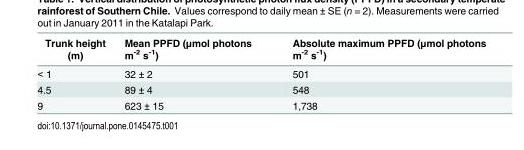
<table><thead><tr><td>Trunk height (m)</td><td>Mean PPFD (μmol photons m<sup>-2</sup> s<sup>-1</sup>)</td><td>Absolute maximum PPFD (μmol photons m<sup>-2</sup> s<sup>-1</sup>)</td></tr></thead><tbody><tr><td>&lt; 1</td><td>32 ± 2</td><td>501</td></tr><tr><td>4.5</td><td>89 ± 4</td><td>548</td></tr><tr><td>9</td><td>623 ± 15</td><td>1,738</td></tr></tbody></table>